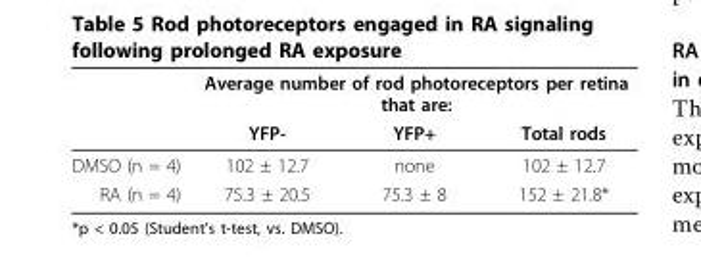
<table><thead><tr><td rowspan="2"></td><td colspan="3">Average number of rod photoreceptors per retina that are:</td></tr><tr><td>YFP-</td><td>YFP+</td><td>Total rods</td></tr></thead><tbody><tr><td>DMSO (n = 4)</td><td>102 ± 12.7</td><td>none</td><td>102 ± 12.7</td></tr><tr><td>RA (n = 4)</td><td>75.3 ± 20.5</td><td>75.3 ± 8</td><td>152 ± 21.8*</td></tr></tbody></table>